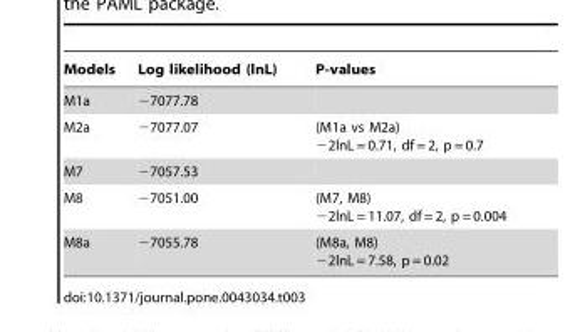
<table><thead><tr><td>Models</td><td>Log likelihood (lnL)</td><td>P-values</td></tr></thead><tbody><tr><td>M1a</td><td>−7077.78</td><td></td></tr><tr><td>M2a</td><td>−7077.07</td><td>(M1a vs M2a) −2lnL = 0.71, df = 2, p = 0.7</td></tr><tr><td>M7</td><td>−7057.53</td><td></td></tr><tr><td>M8</td><td>−7051.00</td><td>(M7, M8) −2lnL = 11.07, df = 2, p = 0.004</td></tr><tr><td>M8a</td><td>−7055.78</td><td>(M8a, M8) −2lnL = 7.58, p = 0.02</td></tr></tbody></table>